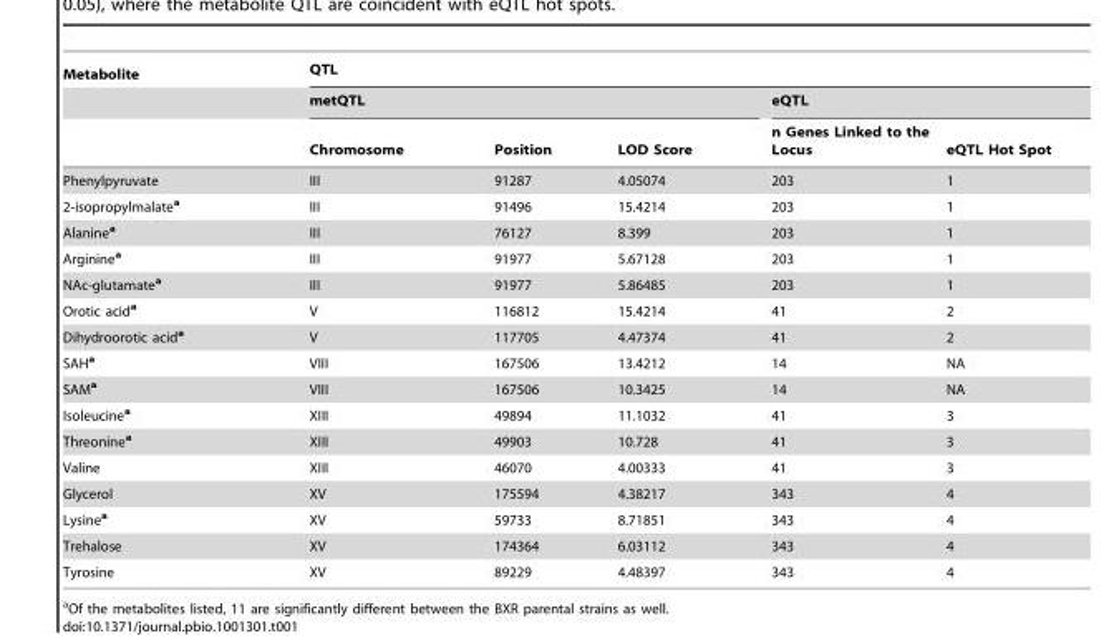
<table><thead><tr><td rowspan="3">Metabolite</td><td colspan="5">QTL</td></tr><tr><td colspan="3">metQTL</td><td colspan="2">eQTL</td></tr><tr><td>Chromosome</td><td>Position</td><td>LOD Score</td><td>n Genes Linked to the Locus</td><td>eQTL Hot Spot</td></tr></thead><tbody><tr><td>Phenylpyruvate</td><td>III</td><td>91287</td><td>4.05074</td><td>203</td><td>1</td></tr><tr><td>2-isopropylmalate<sup>a</sup></td><td>III</td><td>91496</td><td>15.4214</td><td>203</td><td>1</td></tr><tr><td>Alanine<sup>a</sup></td><td>III</td><td>76127</td><td>8.399</td><td>203</td><td>1</td></tr><tr><td>Arginine<sup>a</sup></td><td>III</td><td>91977</td><td>5.67128</td><td>203</td><td>1</td></tr><tr><td>NAc-glutamate<sup>a</sup></td><td>III</td><td>91977</td><td>5.86485</td><td>203</td><td>1</td></tr><tr><td>Orotic acid<sup>a</sup></td><td>V</td><td>116812</td><td>15.4214</td><td>41</td><td>2</td></tr><tr><td>Dihydroorotic acid<sup>a</sup></td><td>V</td><td>117705</td><td>4.47374</td><td>41</td><td>2</td></tr><tr><td>SAH<sup>a</sup></td><td>VIII</td><td>167506</td><td>13.4212</td><td>14</td><td>NA</td></tr><tr><td>SAM<sup>a</sup></td><td>VIII</td><td>167506</td><td>10.3425</td><td>14</td><td>NA</td></tr><tr><td>Isoleucine<sup>a</sup></td><td>XIII</td><td>49894</td><td>11.1032</td><td>41</td><td>3</td></tr><tr><td>Threonine<sup>a</sup></td><td>XIII</td><td>49903</td><td>10.728</td><td>41</td><td>3</td></tr><tr><td>Valine</td><td>XIII</td><td>46070</td><td>4.00333</td><td>41</td><td>3</td></tr><tr><td>Glycerol</td><td>XV</td><td>175594</td><td>4.38217</td><td>343</td><td>4</td></tr><tr><td>Lysine<sup>a</sup></td><td>XV</td><td>59733</td><td>8.71851</td><td>343</td><td>4</td></tr><tr><td>Trehalose</td><td>XV</td><td>174364</td><td>6.03112</td><td>343</td><td>4</td></tr><tr><td>Tyrosine</td><td>XV</td><td>89229</td><td>4.48397</td><td>343</td><td>4</td></tr></tbody></table>